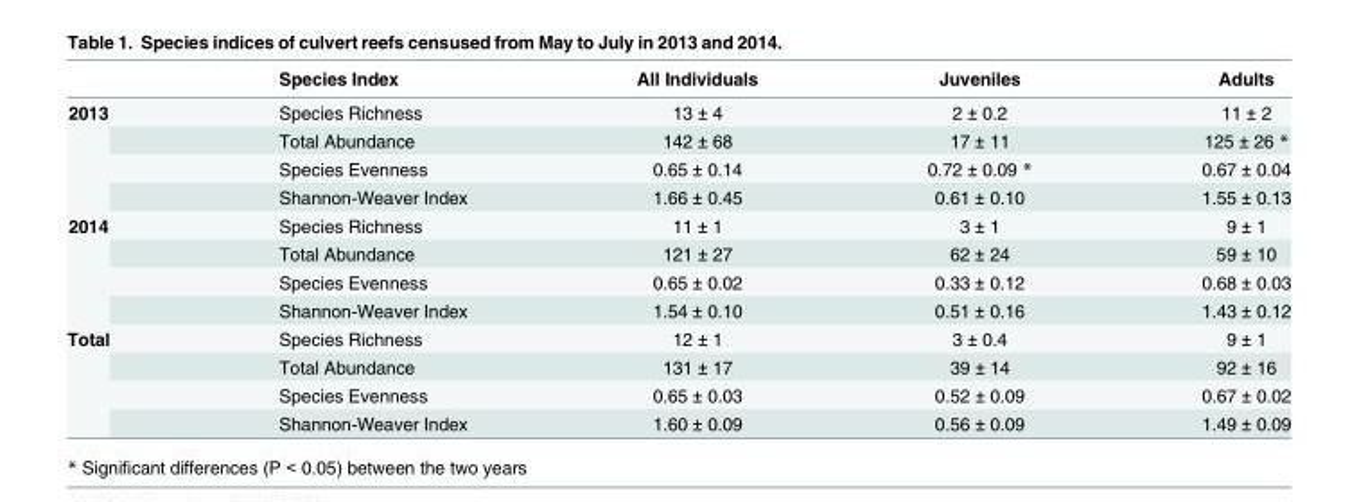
<table><thead><tr><td></td><td>Species Index</td><td>All Individuals</td><td>Juveniles</td><td>Adults</td></tr></thead><tbody><tr><td rowspan="4">2013</td><td>Species Richness</td><td>13 ± 4</td><td>2 ± 0.2</td><td>11 ± 2</td></tr><tr><td>Total Abundance</td><td>142 ± 68</td><td>17 ± 11</td><td>125 ± 26 *</td></tr><tr><td>Species Evenness</td><td>0.65 ± 0.14</td><td>0.72 ± 0.09 *</td><td>0.67 ± 0.04</td></tr><tr><td>Shannon-Weaver Index</td><td>1.66 ± 0.45</td><td>0.61 ± 0.10</td><td>1.55 ± 0.13</td></tr><tr><td rowspan="4">2014</td><td>Species Richness</td><td>11 ± 1</td><td>3 ± 1</td><td>9 ± 1</td></tr><tr><td>Total Abundance</td><td>121 ± 27</td><td>62 ± 24</td><td>59 ± 10</td></tr><tr><td>Species Evenness</td><td>0.65 ± 0.02</td><td>0.33 ± 0.12</td><td>0.68 ± 0.03</td></tr><tr><td>Shannon-Weaver Index</td><td>1.54 ± 0.10</td><td>0.51 ± 0.16</td><td>1.43 ± 0.12</td></tr><tr><td rowspan="4">Total</td><td>Species Richness</td><td>12 ± 1</td><td>3 ± 0.4</td><td>9 ± 1</td></tr><tr><td>Total Abundance</td><td>131 ± 17</td><td>39 ± 14</td><td>92 ± 16</td></tr><tr><td>Species Evenness</td><td>0.65 ± 0.03</td><td>0.52 ± 0.09</td><td>0.67 ± 0.02</td></tr><tr><td>Shannon-Weaver Index</td><td>1.60 ± 0.09</td><td>0.56 ± 0.09</td><td>1.49 ± 0.09</td></tr></tbody></table>